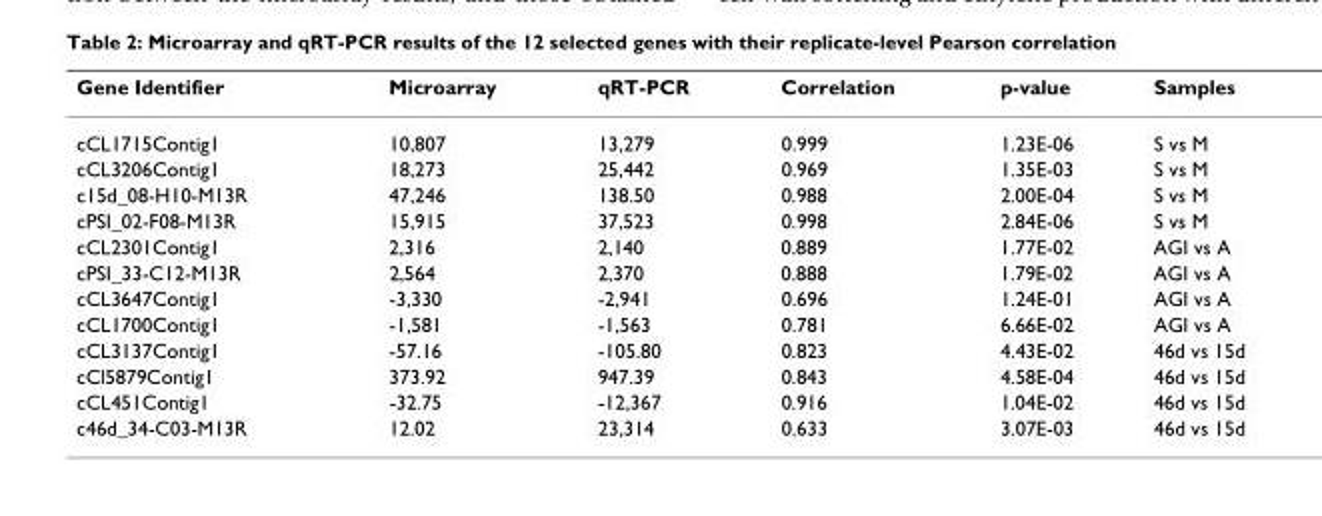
<table><thead><tr><td>Gene Identifier</td><td>Microarray</td><td>qRT-PCR</td><td>Correlation</td><td>p-value</td><td>Samples</td></tr></thead><tbody><tr><td>cCL1715Contig1</td><td>10,807</td><td>13,279</td><td>0.999</td><td>1.23E-06</td><td>S vs M</td></tr><tr><td>cCL3206Contig1</td><td>18,273</td><td>25,442</td><td>0.969</td><td>1.35E-03</td><td>S vs M</td></tr><tr><td>c15d_08-H10-M13R</td><td>47,246</td><td>138.50</td><td>0.988</td><td>2.00E-04</td><td>S vs M</td></tr><tr><td>cPSI_02-F08-M13R</td><td>15,915</td><td>37,523</td><td>0.998</td><td>2.84E-06</td><td>S vs M</td></tr><tr><td>cCL2301Contig1</td><td>2,316</td><td>2,140</td><td>0.889</td><td>1.77E-02</td><td>AGI vs A</td></tr><tr><td>cPSI_33-C12-M13R</td><td>2,564</td><td>2,370</td><td>0.888</td><td>1.79E-02</td><td>AGI vs A</td></tr><tr><td>cCL3647Contig1</td><td>-3,330</td><td>-2,941</td><td>0.696</td><td>1.24E-01</td><td>AGI vs A</td></tr><tr><td>cCL1700Contig1</td><td>-1,581</td><td>-1,563</td><td>0.781</td><td>6.66E-02</td><td>AGI vs A</td></tr><tr><td>cCL3137Contig1</td><td>-57.16</td><td>-105.80</td><td>0.823</td><td>4.43E-02</td><td>46d vs 15d</td></tr><tr><td>cCl5879Contig1</td><td>373.92</td><td>947.39</td><td>0.843</td><td>4.58E-04</td><td>46d vs 15d</td></tr><tr><td>cCL451Contig1</td><td>-32.75</td><td>-12,367</td><td>0.916</td><td>1.04E-02</td><td>46d vs 15d</td></tr><tr><td>c46d_34-C03-M13R</td><td>12.02</td><td>23,314</td><td>0.633</td><td>3.07E-03</td><td>46d vs 15d</td></tr></tbody></table>